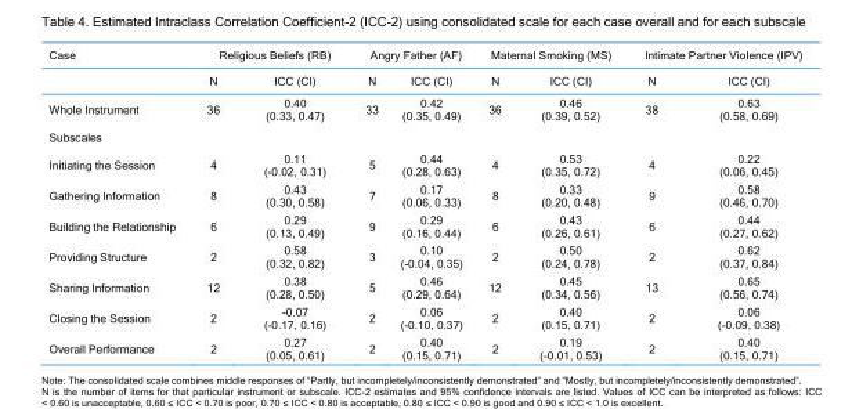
<table><thead><tr><td rowspan="2">Case</td><td colspan="2">Religious Beliefs (RB)</td><td colspan="2">Angry Father (AF)</td><td colspan="2">Maternal Smoking (MS)</td><td colspan="2">Intimate Partner Violence (IPV)</td></tr><tr><td>N</td><td>ICC (CI)</td><td>N</td><td>ICC (CI)</td><td>N</td><td>ICC (CI)</td><td>N</td><td>ICC (CI)</td></tr></thead><tbody><tr><td>Whole Instrument</td><td>36</td><td>0.40 (0.33, 0.47)</td><td>33</td><td>0.42 (0.35, 0.49)</td><td>36</td><td>0.46 (0.39, 0.52)</td><td>38</td><td>0.63 (0.58, 0.69)</td></tr><tr><td colspan="9">Subscales</td></tr><tr><td>Initiating the Session</td><td>4</td><td>0.11 (-0.02, 0.31)</td><td>5</td><td>0.44 (0.28, 0.63)</td><td>4</td><td>0.53 (0.35, 0.72)</td><td>4</td><td>0.22 (0.06, 0.45)</td></tr><tr><td>Gathering Information</td><td>8</td><td>0.43 (0.30, 0.58)</td><td>7</td><td>0.17 (0.06, 0.33)</td><td>8</td><td>0.33 (0.20, 0.48)</td><td>9</td><td>0.58 (0.46, 0.70)</td></tr><tr><td>Building the Relationship</td><td>6</td><td>0.29 (0.13, 0.49)</td><td>9</td><td>0.29 (0.16, 0.44)</td><td>6</td><td>0.43 (0.26, 0.61)</td><td>6</td><td>0.44 (0.27, 0.62)</td></tr><tr><td>Providing Structure</td><td>2</td><td>0.58 (0.32, 0.82)</td><td>3</td><td>0.10 (-0.04, 0.35)</td><td>2</td><td>0.50 (0.24, 0.78)</td><td>2</td><td>0.62 (0.37, 0.84)</td></tr><tr><td>Sharing Information</td><td>12</td><td>0.38 (0.28, 0.50)</td><td>5</td><td>0.46 (0.29, 0.64)</td><td>12</td><td>0.45 (0.34, 0.56)</td><td>13</td><td>0.65 (0.56, 0.74)</td></tr><tr><td>Closing the Session</td><td>2</td><td>-0.07 (-0.17, 0.16)</td><td>2</td><td>0.06 (-0.10, 0.37)</td><td>2</td><td>0.40 (0.15, 0.71)</td><td>2</td><td>0.06 (-0.09, 0.38)</td></tr><tr><td>Overall Performance</td><td>2</td><td>0.27 (0.05, 0.61)</td><td>2</td><td>0.40 (0.15, 0.71)</td><td>2</td><td>0.19 (-0.01, 0.53)</td><td>2</td><td>0.40 (0.15, 0.71)</td></tr></tbody></table>